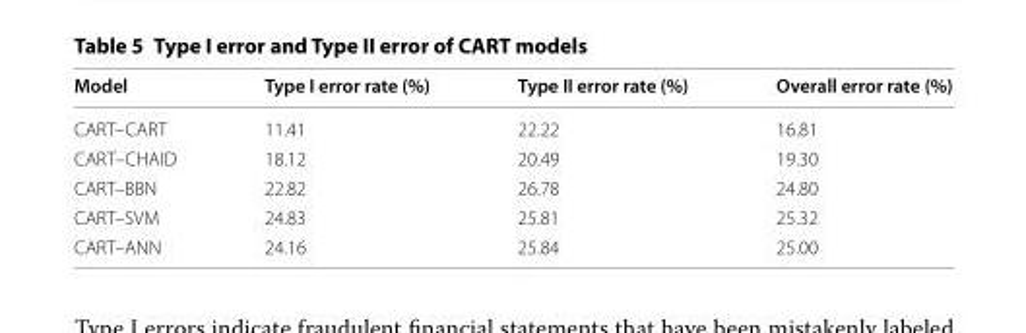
<table><thead><tr><td>Model</td><td>Type I error rate (%)</td><td>Type II error rate (%)</td><td>Overall error rate (%)</td></tr></thead><tbody><tr><td>CART–CART</td><td>11.41</td><td>22.22</td><td>16.81</td></tr><tr><td>CART–CHAID</td><td>18.12</td><td>20.49</td><td>19.30</td></tr><tr><td>CART–BBN</td><td>22.82</td><td>26.78</td><td>24.80</td></tr><tr><td>CART–SVM</td><td>24.83</td><td>25.81</td><td>25.32</td></tr><tr><td>CART–ANN</td><td>24.16</td><td>25.84</td><td>25.00</td></tr></tbody></table>